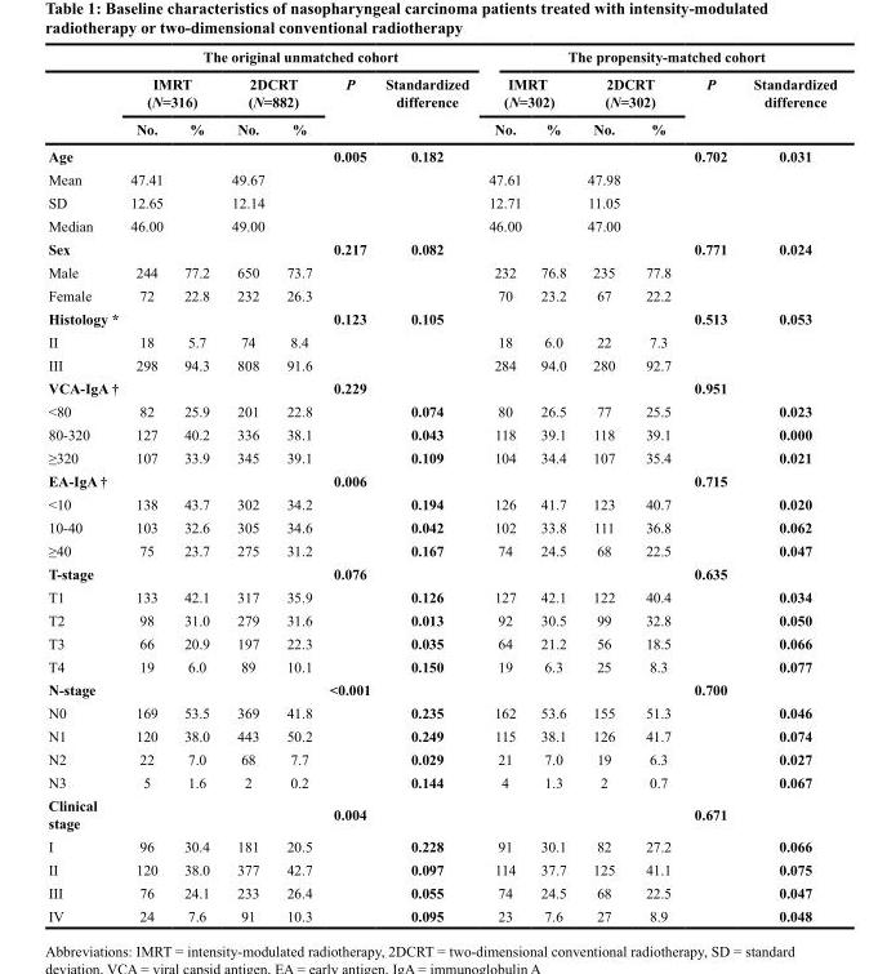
<table><thead><tr><td rowspan="3"></td><td colspan="6">The original unmatched cohort</td><td colspan="6">The propensity-matched cohort</td></tr><tr><td colspan="2">IMRT (N=316)</td><td colspan="2">2DCRT (N=882)</td><td rowspan="2">P</td><td rowspan="2">Standardized difference</td><td colspan="2">IMRT (N=302)</td><td colspan="2">2DCRT (N=302)</td><td rowspan="2">P</td><td rowspan="2">Standardized difference</td></tr><tr><td>No.</td><td>%</td><td>No.</td><td>%</td><td>No.</td><td>%</td><td>No.</td><td>%</td></tr></thead><tbody><tr><td>Age</td><td></td><td></td><td></td><td></td><td>0.005</td><td>0.182</td><td></td><td></td><td></td><td></td><td>0.702</td><td>0.031</td></tr><tr><td>Mean</td><td>47.41</td><td></td><td>49.67</td><td></td><td></td><td></td><td>47.61</td><td></td><td>47.98</td><td></td><td></td><td></td></tr><tr><td>SD</td><td>12.65</td><td></td><td>12.14</td><td></td><td></td><td></td><td>12.71</td><td></td><td>11.05</td><td></td><td></td><td></td></tr><tr><td>Median</td><td>46.00</td><td></td><td>49.00</td><td></td><td></td><td></td><td>46.00</td><td></td><td>47.00</td><td></td><td></td><td></td></tr><tr><td>Sex</td><td></td><td></td><td></td><td></td><td>0.217</td><td>0.082</td><td></td><td></td><td></td><td></td><td>0.771</td><td>0.024</td></tr><tr><td>Male</td><td>244</td><td>77.2</td><td>650</td><td>73.7</td><td></td><td></td><td>232</td><td>76.8</td><td>235</td><td>77.8</td><td></td><td></td></tr><tr><td>Female</td><td>72</td><td>22.8</td><td>232</td><td>26.3</td><td></td><td></td><td>70</td><td>23.2</td><td>67</td><td>22.2</td><td></td><td></td></tr><tr><td>Histology *</td><td></td><td></td><td></td><td></td><td>0.123</td><td>0.105</td><td></td><td></td><td></td><td></td><td>0.513</td><td>0.053</td></tr><tr><td>II</td><td>18</td><td>5.7</td><td>74</td><td>8.4</td><td></td><td></td><td>18</td><td>6.0</td><td>22</td><td>7.3</td><td></td><td></td></tr><tr><td>III</td><td>298</td><td>94.3</td><td>808</td><td>91.6</td><td></td><td></td><td>284</td><td>94.0</td><td>280</td><td>92.7</td><td></td><td></td></tr><tr><td>VCA-IgA <sup>†</sup></td><td></td><td></td><td></td><td></td><td>0.229</td><td></td><td></td><td></td><td></td><td></td><td>0.951</td><td></td></tr><tr><td>&lt;80</td><td>82</td><td>25.9</td><td>201</td><td>22.8</td><td></td><td>0.074</td><td>80</td><td>26.5</td><td>77</td><td>25.5</td><td></td><td>0.023</td></tr><tr><td>80-320</td><td>127</td><td>40.2</td><td>336</td><td>38.1</td><td></td><td>0.043</td><td>118</td><td>39.1</td><td>118</td><td>39.1</td><td></td><td>0.000</td></tr><tr><td>≥320</td><td>107</td><td>33.9</td><td>345</td><td>39.1</td><td></td><td>0.109</td><td>104</td><td>34.4</td><td>107</td><td>35.4</td><td></td><td>0.021</td></tr><tr><td>EA-IgA <sup>†</sup></td><td></td><td></td><td></td><td></td><td>0.006</td><td></td><td></td><td></td><td></td><td></td><td>0.715</td><td></td></tr><tr><td>&lt;10</td><td>138</td><td>43.7</td><td>302</td><td>34.2</td><td></td><td>0.194</td><td>126</td><td>41.7</td><td>123</td><td>40.7</td><td></td><td>0.020</td></tr><tr><td>10-40</td><td>103</td><td>32.6</td><td>305</td><td>34.6</td><td></td><td>0.042</td><td>102</td><td>33.8</td><td>111</td><td>36.8</td><td></td><td>0.062</td></tr><tr><td>≥40</td><td>75</td><td>23.7</td><td>275</td><td>31.2</td><td></td><td>0.167</td><td>74</td><td>24.5</td><td>68</td><td>22.5</td><td></td><td>0.047</td></tr><tr><td>T-stage</td><td></td><td></td><td></td><td></td><td>0.076</td><td></td><td></td><td></td><td></td><td></td><td>0.635</td><td></td></tr><tr><td>T1</td><td>133</td><td>42.1</td><td>317</td><td>35.9</td><td></td><td>0.126</td><td>127</td><td>42.1</td><td>122</td><td>40.4</td><td></td><td>0.034</td></tr><tr><td>T2</td><td>98</td><td>31.0</td><td>279</td><td>31.6</td><td></td><td>0.013</td><td>92</td><td>30.5</td><td>99</td><td>32.8</td><td></td><td>0.050</td></tr><tr><td>T3</td><td>66</td><td>20.9</td><td>197</td><td>22.3</td><td></td><td>0.035</td><td>64</td><td>21.2</td><td>56</td><td>18.5</td><td></td><td>0.066</td></tr><tr><td>T4</td><td>19</td><td>6.0</td><td>89</td><td>10.1</td><td></td><td>0.150</td><td>19</td><td>6.3</td><td>25</td><td>8.3</td><td></td><td>0.077</td></tr><tr><td>N-stage</td><td></td><td></td><td></td><td></td><td>&lt;0.001</td><td></td><td></td><td></td><td></td><td></td><td>0.700</td><td></td></tr><tr><td>N0</td><td>169</td><td>53.5</td><td>369</td><td>41.8</td><td></td><td>0.235</td><td>162</td><td>53.6</td><td>155</td><td>51.3</td><td></td><td>0.046</td></tr><tr><td>N1</td><td>120</td><td>38.0</td><td>443</td><td>50.2</td><td></td><td>0.249</td><td>115</td><td>38.1</td><td>126</td><td>41.7</td><td></td><td>0.074</td></tr><tr><td>N2</td><td>22</td><td>7.0</td><td>68</td><td>7.7</td><td></td><td>0.029</td><td>21</td><td>7.0</td><td>19</td><td>6.3</td><td></td><td>0.027</td></tr><tr><td>N3</td><td>5</td><td>1.6</td><td>2</td><td>0.2</td><td></td><td>0.144</td><td>4</td><td>1.3</td><td>2</td><td>0.7</td><td></td><td>0.067</td></tr><tr><td>Clinical stage</td><td></td><td></td><td></td><td></td><td>0.004</td><td></td><td></td><td></td><td></td><td></td><td>0.671</td><td></td></tr><tr><td>I</td><td>96</td><td>30.4</td><td>181</td><td>20.5</td><td></td><td>0.228</td><td>91</td><td>30.1</td><td>82</td><td>27.2</td><td></td><td>0.066</td></tr><tr><td>II</td><td>120</td><td>38.0</td><td>377</td><td>42.7</td><td></td><td>0.097</td><td>114</td><td>37.7</td><td>125</td><td>41.1</td><td></td><td>0.075</td></tr><tr><td>III</td><td>76</td><td>24.1</td><td>233</td><td>26.4</td><td></td><td>0.055</td><td>74</td><td>24.5</td><td>68</td><td>22.5</td><td></td><td>0.047</td></tr><tr><td>IV</td><td>24</td><td>7.6</td><td>91</td><td>10.3</td><td></td><td>0.095</td><td>23</td><td>7.6</td><td>27</td><td>8.9</td><td></td><td>0.048</td></tr></tbody></table>